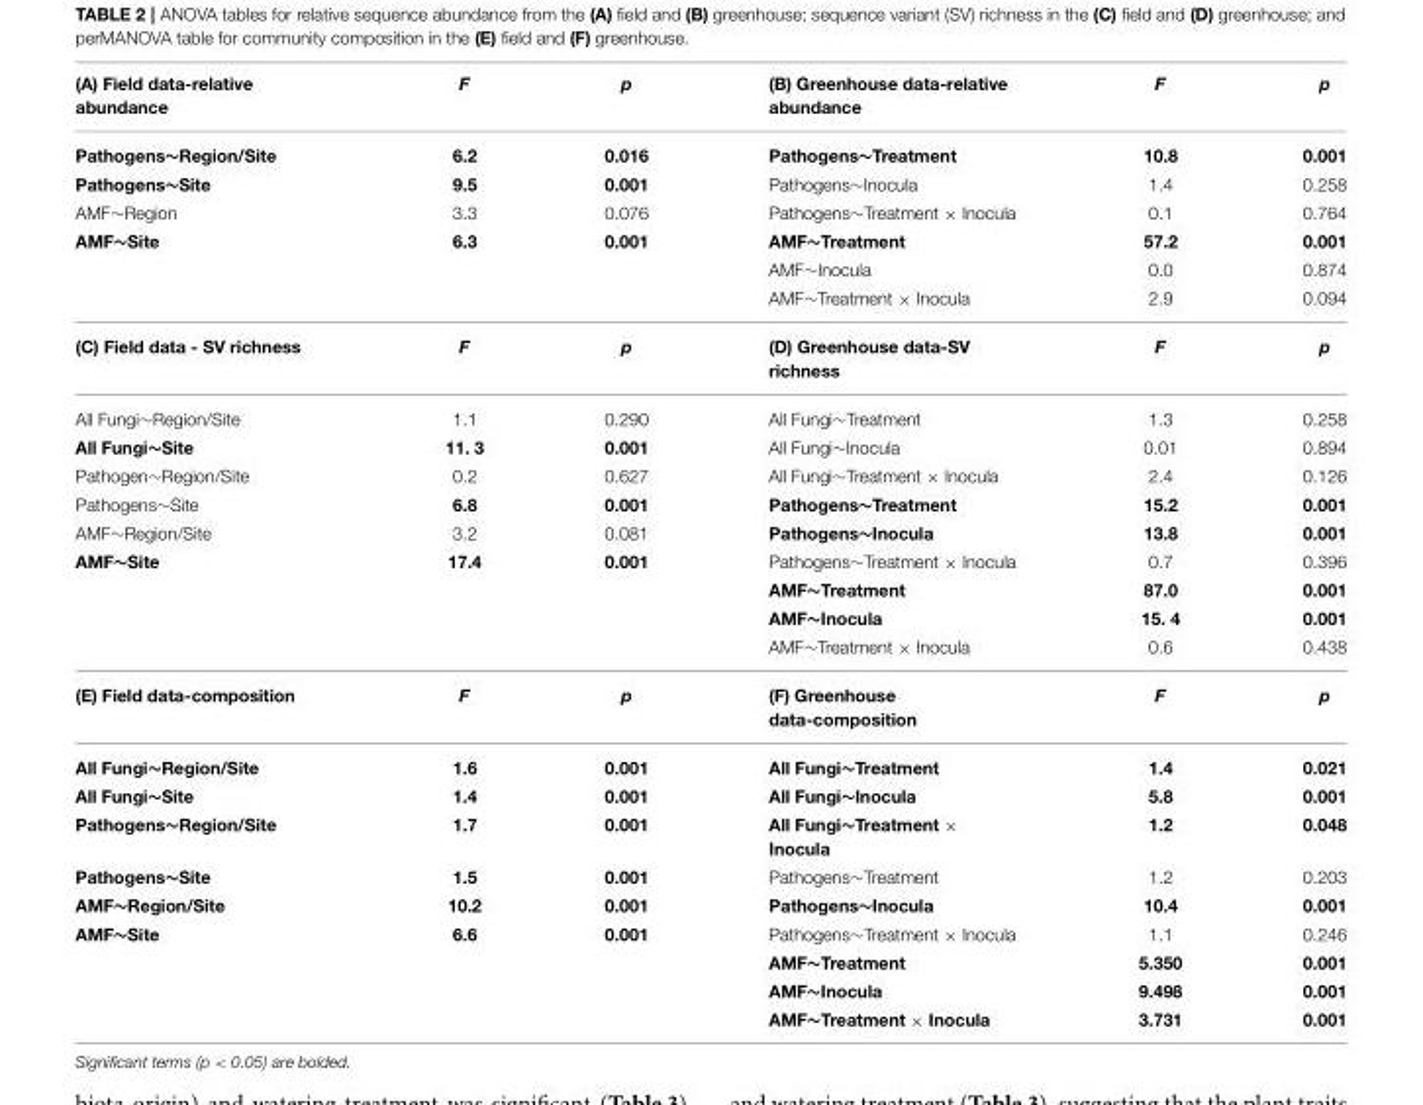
<table><thead><tr><td>(A) Field data-relative abundance</td><td>F</td><td>p</td><td>(B) Greenhouse data-relative abundance</td><td>F</td><td>p</td></tr></thead><tbody><tr><td>Pathogens∼Region/Site</td><td>6.2</td><td>0.016</td><td>Pathogens∼Treatment</td><td>10.8</td><td>0.001</td></tr><tr><td>Pathogens∼Site</td><td>9.5</td><td>0.001</td><td>Pathogens∼Inocula</td><td>1.4</td><td>0.258</td></tr><tr><td>AMF∼Region</td><td>3.3</td><td>0.076</td><td>Pathogens∼Treatment × Inocula</td><td>0.1</td><td>0.764</td></tr><tr><td rowspan="3">AMF∼Site</td><td>6.3</td><td>0.001</td><td>AMF∼Treatment</td><td>57.2</td><td>0.001</td></tr><tr><td></td><td></td><td>AMF∼Inocula</td><td>0.0</td><td>0.874</td></tr><tr><td></td><td></td><td>AMF∼Treatment × Inocula</td><td>2.9</td><td>0.094</td></tr><tr><td>(C) Field data - SV richness</td><td>F</td><td>p</td><td>(D) Greenhouse data-SV richness</td><td>F</td><td>p</td></tr><tr><td>All Fungi∼Region/Site</td><td>1.1</td><td>0.290</td><td>All Fungi∼Treatment</td><td>1.3</td><td>0.258</td></tr><tr><td>All Fungi∼Site</td><td>11. 3</td><td>0.001</td><td>All Fungi∼Inocula</td><td>0.01</td><td>0.894</td></tr><tr><td>Pathogen∼Region/Site</td><td>0.2</td><td>0.627</td><td>All Fungi∼Treatment × Inocula</td><td>2.4</td><td>0.126</td></tr><tr><td>Pathogens∼Site</td><td>6.8</td><td>0.001</td><td>Pathogens∼Treatment</td><td>15.2</td><td>0.001</td></tr><tr><td>AMF∼Region/Site</td><td>3.2</td><td>0.081</td><td>Pathogens∼Inocula</td><td>13.8</td><td>0.001</td></tr><tr><td rowspan="4">AMF∼Site</td><td>17.4</td><td>0.001</td><td>Pathogens∼Treatment × Inocula</td><td>0.7</td><td>0.396</td></tr><tr><td></td><td></td><td>AMF∼Treatment</td><td>87.0</td><td>0.001</td></tr><tr><td></td><td></td><td>AMF∼Inocula</td><td>15. 4</td><td>0.001</td></tr><tr><td></td><td></td><td>AMF∼Treatment × Inocula</td><td>0.6</td><td>0.438</td></tr><tr><td>(E) Field data-composition</td><td>F</td><td>p</td><td>(F) Greenhouse data-composition</td><td>F</td><td>p</td></tr><tr><td>All Fungi∼Region/Site</td><td>1.6</td><td>0.001</td><td>All Fungi∼Treatment</td><td>1.4</td><td>0.021</td></tr><tr><td>All Fungi∼Site</td><td>1.4</td><td>0.001</td><td>All Fungi∼Inocula</td><td>5.8</td><td>0.001</td></tr><tr><td>Pathogens∼Region/Site</td><td>1.7</td><td>0.001</td><td>All Fungi∼Treatment × Inocula</td><td>1.2</td><td>0.048</td></tr><tr><td>Pathogens∼Site</td><td>1.5</td><td>0.001</td><td>Pathogens∼Treatment</td><td>1.2</td><td>0.203</td></tr><tr><td>AMF∼Region/Site</td><td>10.2</td><td>0.001</td><td>Pathogens∼Inocula</td><td>10.4</td><td>0.001</td></tr><tr><td rowspan="4">AMF∼Site</td><td>6.6</td><td>0.001</td><td>Pathogens∼Treatment × Inocula</td><td>1.1</td><td>0.246</td></tr><tr><td></td><td></td><td>AMF∼Treatment</td><td>5.350</td><td>0.001</td></tr><tr><td></td><td></td><td>AMF∼Inocula</td><td>9.498</td><td>0.001</td></tr><tr><td></td><td></td><td>AMF∼Treatment × Inocula</td><td>3.731</td><td>0.001</td></tr></tbody></table>